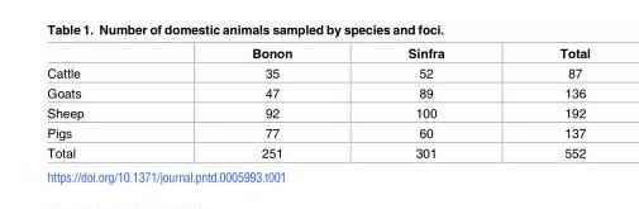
<table><thead><tr><td></td><td>Bonon</td><td>Sinfra</td><td>Total</td></tr></thead><tbody><tr><td>Cattle</td><td>35</td><td>52</td><td>87</td></tr><tr><td>Goats</td><td>47</td><td>89</td><td>136</td></tr><tr><td>Sheep</td><td>92</td><td>100</td><td>192</td></tr><tr><td>Pigs</td><td>77</td><td>60</td><td>137</td></tr><tr><td>Total</td><td>251</td><td>301</td><td>552</td></tr></tbody></table>